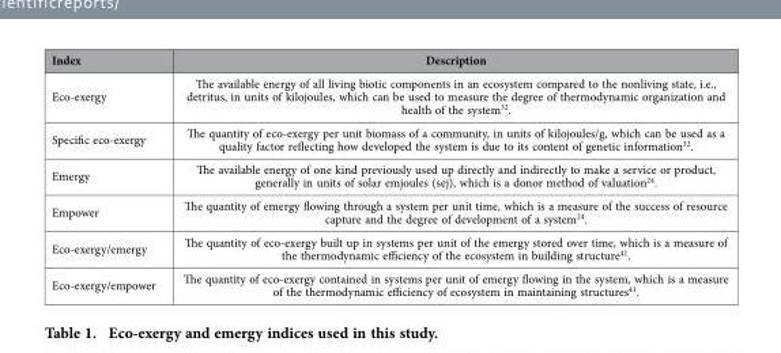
<table><thead><tr><td>Index</td><td>Description</td></tr></thead><tbody><tr><td>Eco-exergy</td><td>The available energy of all living biotic components in an ecosystem compared to the nonliving state, i.e., detritus, in units of kilojoules, which can be used to measure the degree of thermodynamic organization and health of the system<sup>32</sup>.</td></tr><tr><td>Specific eco-exergy</td><td>The quantity of eco-exergy per unit biomass of a community, in units of kilojoules/g, which can be used as a quality factor reflecting how developed the system is due to its content of genetic information<sup>32</sup>.</td></tr><tr><td>Emergy</td><td>The available energy of one kind previously used up directly and indirectly to make a service or product, generally in units of solar emjoules (sej), which is a donor method of valuation<sup>24</sup>.</td></tr><tr><td>Empower</td><td>The quantity of emergy flowing through a system per unit time, which is a measure of the success of resource capture and the degree of development of a system<sup>24</sup>.</td></tr><tr><td>Eco-exergy/emergy</td><td>The quantity of eco-exergy built up in systems per unit of the emergy stored over time, which is a measure of the thermodynamic efficiency of the ecosystem in building structure<sup>41</sup>.</td></tr><tr><td>Eco-exergy/empower</td><td>The quantity of eco-exergy contained in systems per unit of emergy flowing in the system, which is a measure of the thermodynamic efficiency of ecosystem in maintaining structures<sup>41</sup>.</td></tr></tbody></table>